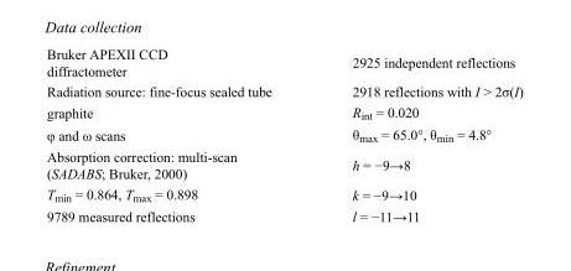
<table><tbody><tr><td>Bruker APEXII CCD diffractometer</td><td>2925 independent reflections</td></tr><tr><td>Radiation source: fine-focus sealed tube</td><td>2918 reflections with I &gt; 2σ(I)</td></tr><tr><td>graphite</td><td>R<sub>int</sub> = 0.020</td></tr><tr><td>φ and ω scans</td><td>θ<sub>max</sub> = 65.0°, θ<sub>min</sub> = 4.8°</td></tr><tr><td>Absorption correction: multi-scan (SADABS; Bruker, 2000)</td><td>h = −9→8</td></tr><tr><td>T<sub>min</sub> = 0.864, T<sub>max</sub> = 0.898</td><td>k = −9→10</td></tr><tr><td>9789 measured reflections</td><td>l = −11→11</td></tr></tbody></table>